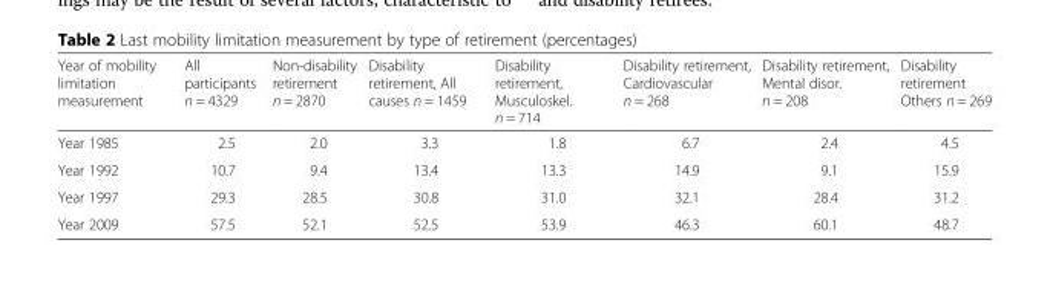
<table><thead><tr><td>Year of mobility limitation measurement</td><td>All participants n = 4329</td><td>Non-disability retirement n = 2870</td><td>Disability retirement, All causes n = 1459</td><td>Disability retirement, Musculoskel. n = 714</td><td>Disability retirement, Cardiovascular n = 268</td><td>Disability retirement, Mental disor. n = 208</td><td>Disability retirement Others n = 269</td></tr></thead><tbody><tr><td>Year 1985</td><td>2.5</td><td>2.0</td><td>3.3</td><td>1.8</td><td>6.7</td><td>2.4</td><td>4.5</td></tr><tr><td>Year 1992</td><td>10.7</td><td>9.4</td><td>13.4</td><td>13.3</td><td>14.9</td><td>9.1</td><td>15.9</td></tr><tr><td>Year 1997</td><td>29.3</td><td>28.5</td><td>30.8</td><td>31.0</td><td>32.1</td><td>28.4</td><td>31.2</td></tr><tr><td>Year 2009</td><td>57.5</td><td>52.1</td><td>52.5</td><td>53.9</td><td>46.3</td><td>60.1</td><td>48.7</td></tr></tbody></table>